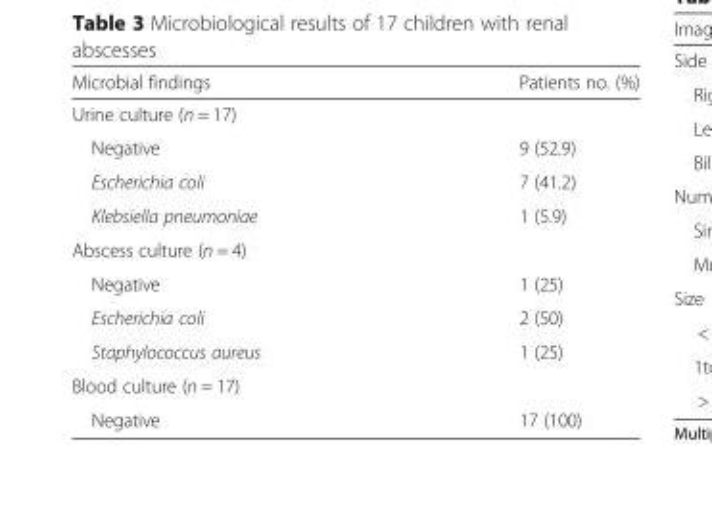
<table><thead><tr><td>Microbial findings</td><td>Patients no. (%)</td></tr></thead><tbody><tr><td colspan="2">Urine culture (n = 17)</td></tr><tr><td>Negative</td><td>9 (52.9)</td></tr><tr><td>Escherichia coli</td><td>7 (41.2)</td></tr><tr><td>Klebsiella pneumoniae</td><td>1 (5.9)</td></tr><tr><td colspan="2">Abscess culture (n = 4)</td></tr><tr><td>Negative</td><td>1 (25)</td></tr><tr><td>Escherichia coli</td><td>2 (50)</td></tr><tr><td>Staphylococcus aureus</td><td>1 (25)</td></tr><tr><td colspan="2">Blood culture (n = 17)</td></tr><tr><td>Negative</td><td>17 (100)</td></tr></tbody></table>